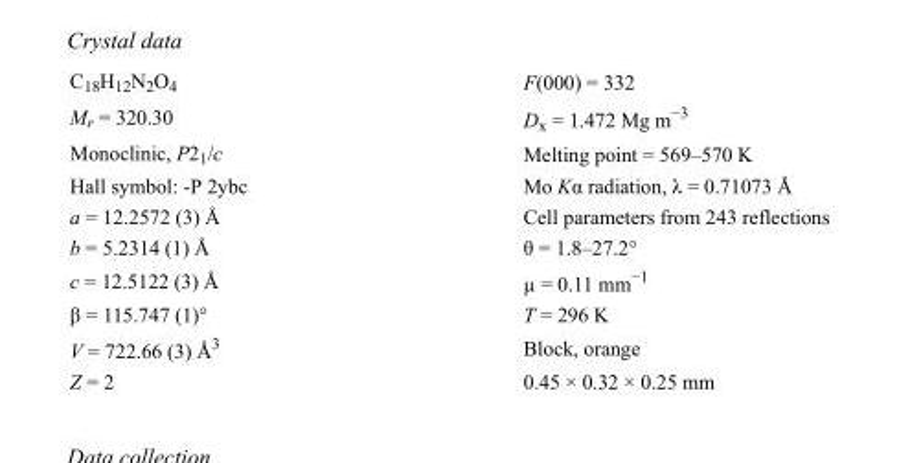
<table><tbody><tr><td>C<sub>18</sub>H<sub>12</sub>N<sub>2</sub>O<sub>4</sub></td><td>F(000) = 332</td></tr><tr><td>M<sub>r</sub> = 320.30</td><td>D<sub>x</sub> = 1.472 Mg m<sup>−3</sup></td></tr><tr><td>Monoclinic, P2<sub>1</sub>/c</td><td>Melting point = 569–570 K</td></tr><tr><td>Hall symbol: -P 2ybc</td><td>Mo Kα radiation, λ = 0.71073 Å</td></tr><tr><td>a = 12.2572 (3) Å</td><td>Cell parameters from 243 reflections</td></tr><tr><td>b = 5.2314 (1) Å</td><td>θ = 1.8–27.2°</td></tr><tr><td>c = 12.5122 (3) Å</td><td>µ = 0.11 mm<sup>−1</sup></td></tr><tr><td>β = 115.747 (1)°</td><td>T = 296 K</td></tr><tr><td>V = 722.66 (3) Å<sup>3</sup></td><td>Block, orange</td></tr><tr><td>Z = 2</td><td>0.45 × 0.32 × 0.25 mm</td></tr></tbody></table>